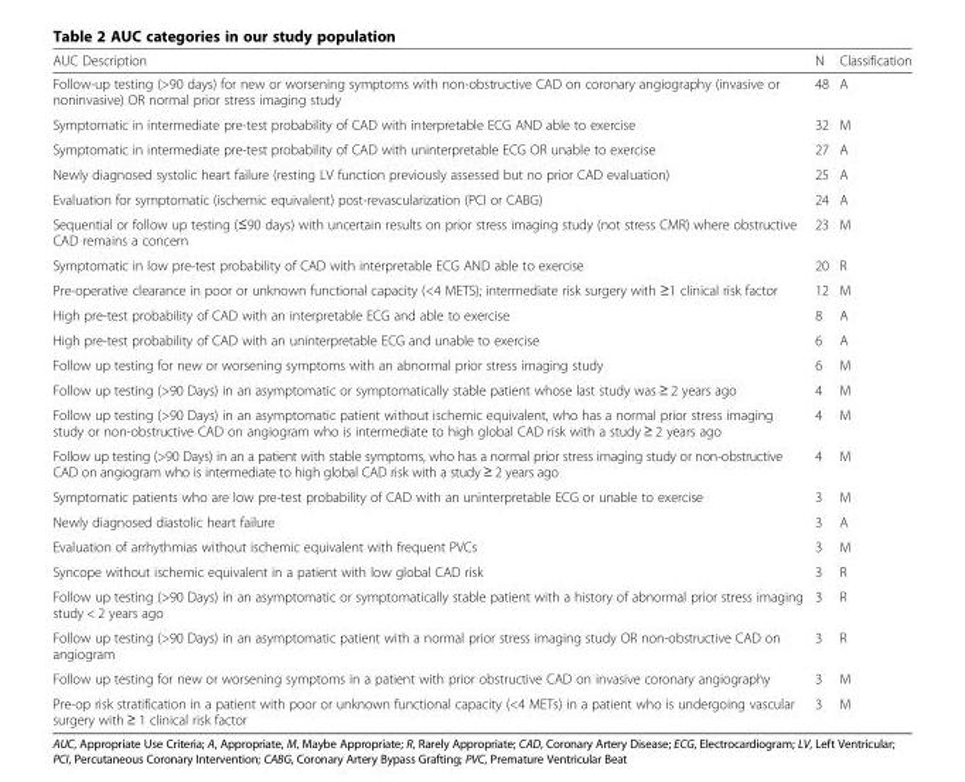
<table><thead><tr><td>AUC Description</td><td>N</td><td>Classification</td></tr></thead><tbody><tr><td>Follow-up testing (&gt;90 days) for new or worsening symptoms with non-obstructive CAD on coronary angiography (invasive or noninvasive) OR normal prior stress imaging study</td><td>48</td><td>A</td></tr><tr><td>Symptomatic in intermediate pre-test probability of CAD with interpretable ECG AND able to exercise</td><td>32</td><td>M</td></tr><tr><td>Symptomatic in intermediate pre-test probability of CAD with uninterpretable ECG OR unable to exercise</td><td>27</td><td>A</td></tr><tr><td>Newly diagnosed systolic heart failure (resting LV function previously assessed but no prior CAD evaluation)</td><td>25</td><td>A</td></tr><tr><td>Evaluation for symptomatic (ischemic equivalent) post-revascularization (PCI or CABG)</td><td>24</td><td>A</td></tr><tr><td>Sequential or follow up testing (≤90 days) with uncertain results on prior stress imaging study (not stress CMR) where obstructive CAD remains a concern</td><td>23</td><td>M</td></tr><tr><td>Symptomatic in low pre-test probability of CAD with interpretable ECG AND able to exercise</td><td>20</td><td>R</td></tr><tr><td>Pre-operative clearance in poor or unknown functional capacity (&lt;4 METS); intermediate risk surgery with ≥1 clinical risk factor</td><td>12</td><td>M</td></tr><tr><td>High pre-test probability of CAD with an interpretable ECG and able to exercise</td><td>8</td><td>A</td></tr><tr><td>High pre-test probability of CAD with an uninterpretable ECG and unable to exercise</td><td>6</td><td>A</td></tr><tr><td>Follow up testing for new or worsening symptoms with an abnormal prior stress imaging study</td><td>6</td><td>M</td></tr><tr><td>Follow up testing (&gt;90 Days) in an asymptomatic or symptomatically stable patient whose last study was ≥ 2 years ago</td><td>4</td><td>M</td></tr><tr><td>Follow up testing (&gt;90 Days) in an asymptomatic patient without ischemic equivalent, who has a normal prior stress imaging study or non-obstructive CAD on angiogram who is intermediate to high global CAD risk with a study ≥ 2 years ago</td><td>4</td><td>M</td></tr><tr><td>Follow up testing (&gt;90 Days) in an a patient with stable symptoms, who has a normal prior stress imaging study or non-obstructive CAD on angiogram who is intermediate to high global CAD risk with a study ≥ 2 years ago</td><td>4</td><td>M</td></tr><tr><td>Symptomatic patients who are low pre-test probability of CAD with an uninterpretable ECG or unable to exercise</td><td>3</td><td>M</td></tr><tr><td>Newly diagnosed diastolic heart failure</td><td>3</td><td>A</td></tr><tr><td>Evaluation of arrhythmias without ischemic equivalent with frequent PVCs</td><td>3</td><td>M</td></tr><tr><td>Syncope without ischemic equivalent in a patient with low global CAD risk</td><td>3</td><td>R</td></tr><tr><td>Follow up testing (&gt;90 Days) in an asymptomatic or symptomatically stable patient with a history of abnormal prior stress imaging study &lt; 2 years ago</td><td>3</td><td>R</td></tr><tr><td>Follow up testing (&gt;90 Days) in an asymptomatic patient with a normal prior stress imaging study OR non-obstructive CAD on angiogram</td><td>3</td><td>R</td></tr><tr><td>Follow up testing for new or worsening symptoms in a patient with prior obstructive CAD on invasive coronary angiography</td><td>3</td><td>M</td></tr><tr><td>Pre-op risk stratification in a patient with poor or unknown functional capacity (&lt;4 METs) in a patient who is undergoing vascular surgery with ≥ 1 clinical risk factor</td><td>3</td><td>M</td></tr></tbody></table>